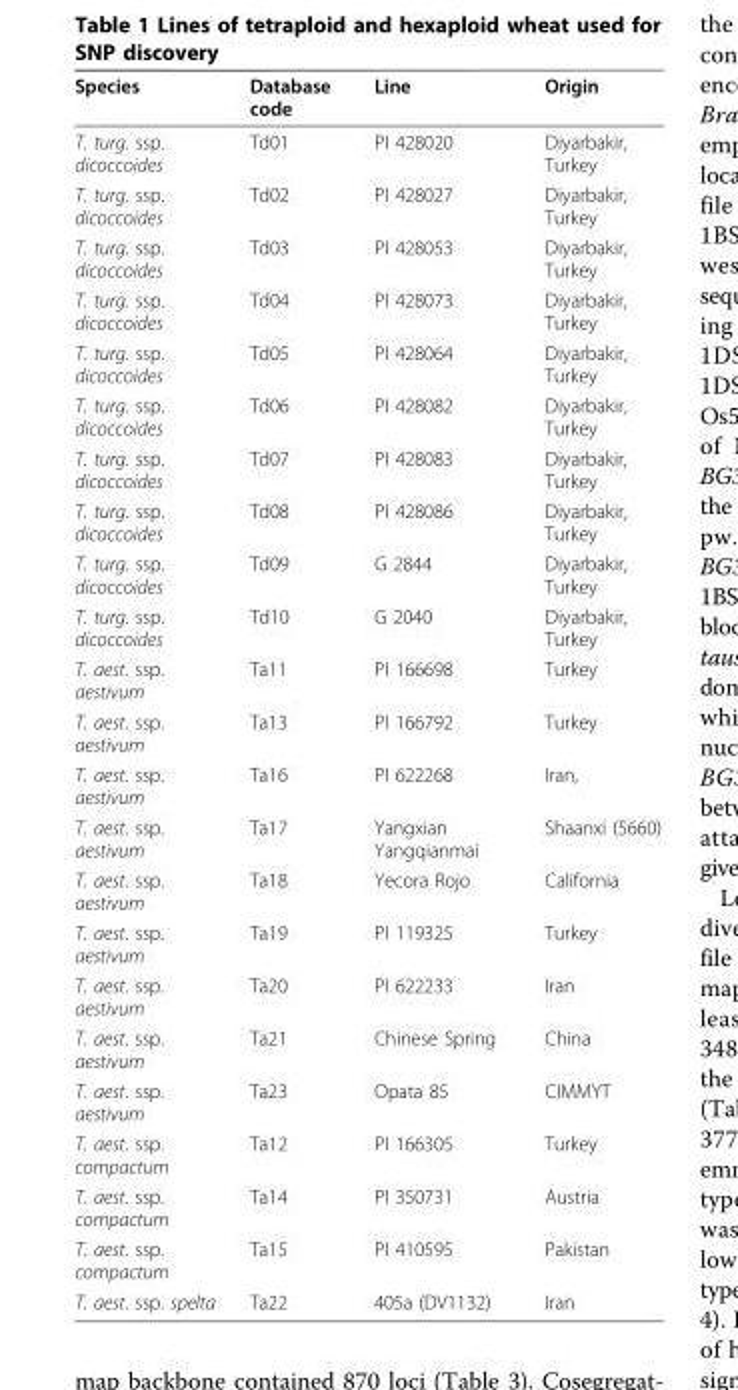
<table><thead><tr><td>Species</td><td>Database code</td><td>Line</td><td>Origin</td></tr></thead><tbody><tr><td>T. turg. ssp. dicoccoides</td><td>Td01</td><td>PI 428020</td><td>Diyarbakir, Turkey</td></tr><tr><td>T. turg. ssp. dicoccoides</td><td>Td02</td><td>PI 428027</td><td>Diyarbakir, Turkey</td></tr><tr><td>T. turg. ssp. dicoccoides</td><td>Td03</td><td>PI 428053</td><td>Diyarbakir, Turkey</td></tr><tr><td>T. turg. ssp. dicoccoides</td><td>Td04</td><td>PI 428073</td><td>Diyarbakir, Turkey</td></tr><tr><td>T. turg. ssp. dicoccoides</td><td>Td05</td><td>PI 428064</td><td>Diyarbakir, Turkey</td></tr><tr><td>T. turg. ssp. dicoccoides</td><td>Td06</td><td>PI 428082</td><td>Diyarbakir, Turkey</td></tr><tr><td>T. turg. ssp. dicoccoides</td><td>Td07</td><td>PI 428083</td><td>Diyarbakir, Turkey</td></tr><tr><td>T. turg. ssp. dicoccoides</td><td>Td08</td><td>PI 428086</td><td>Diyarbakir, Turkey</td></tr><tr><td>T. turg. ssp. dicoccoides</td><td>Td09</td><td>G 2844</td><td>Diyarbakir, Turkey</td></tr><tr><td>T. turg. ssp. dicoccoides</td><td>Td10</td><td>G 2040</td><td>Diyarbakir, Turkey</td></tr><tr><td>T. aest. ssp. aestivum</td><td>Ta11</td><td>PI 166698</td><td>Turkey</td></tr><tr><td>T. aest. ssp. aestivum</td><td>Ta13</td><td>PI 166792</td><td>Turkey</td></tr><tr><td>T. aest. ssp. aestivum</td><td>Ta16</td><td>PI 622268</td><td>Iran,</td></tr><tr><td>T. aest. ssp. aestivum</td><td>Ta17</td><td>Yangxian Yangqianmai</td><td>Shaanxi (5660)</td></tr><tr><td>T. aest. ssp. aestivum</td><td>Ta18</td><td>Yecora Rojo</td><td>California</td></tr><tr><td>T. aest. ssp. aestivum</td><td>Ta19</td><td>PI 119325</td><td>Turkey</td></tr><tr><td>T. aest. ssp. aestivum</td><td>Ta20</td><td>PI 622233</td><td>Iran</td></tr><tr><td>T. aest. ssp. aestivum</td><td>Ta21</td><td>Chinese Spring</td><td>China</td></tr><tr><td>T. aest. ssp. aestivum</td><td>Ta23</td><td>Opata 85</td><td>CIMMYT</td></tr><tr><td>T. aest. ssp. compactum</td><td>Ta12</td><td>PI 166305</td><td>Turkey</td></tr><tr><td>T. aest. ssp. compactum</td><td>Ta14</td><td>PI 350731</td><td>Austria</td></tr><tr><td>T. aest. ssp. compactum</td><td>Ta15</td><td>PI 410595</td><td>Pakistan</td></tr><tr><td>T. aest. ssp. spelta</td><td>Ta22</td><td>405a (DV1132)</td><td>Iran</td></tr></tbody></table>